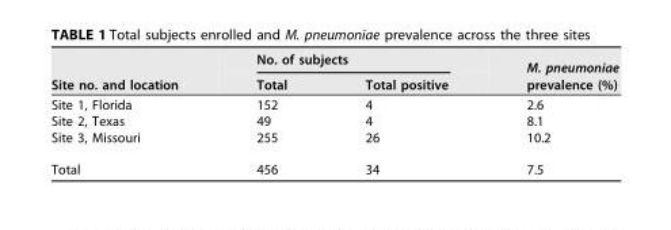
<table><thead><tr><td rowspan="2">Site no. and location</td><td colspan="2">No. of subjects</td><td rowspan="2">M. pneumoniae prevalence (%)</td></tr><tr><td>Total</td><td>Total positive</td></tr></thead><tbody><tr><td>Site 1, Florida</td><td>152</td><td>4</td><td>2.6</td></tr><tr><td>Site 2, Texas</td><td>49</td><td>4</td><td>8.1</td></tr><tr><td>Site 3, Missouri</td><td>255</td><td>26</td><td>10.2</td></tr><tr><td>Total</td><td>456</td><td>34</td><td>7.5</td></tr></tbody></table>